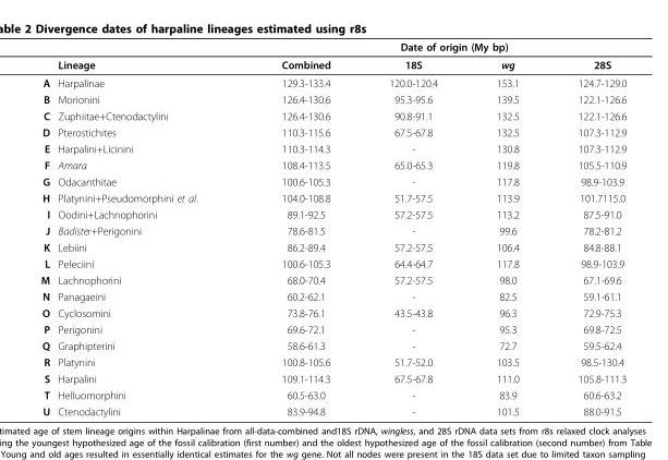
<table><thead><tr><td rowspan="2"></td><td rowspan="2">Lineage</td><td colspan="4">Date of origin (My bp)</td></tr><tr><td>Combined</td><td>18S</td><td>wg</td><td>28S</td></tr></thead><tbody><tr><td>A</td><td>Harpalinae</td><td>129.3-133.4</td><td>120.0-120.4</td><td>153.1</td><td>124.7-129.0</td></tr><tr><td>B</td><td>Morionini</td><td>126.4-130.6</td><td>95.3-95.6</td><td>139.5</td><td>122.1-126.6</td></tr><tr><td>C</td><td>Zuphiitae+Ctenodactylini</td><td>126.4-130.6</td><td>90.8-91.1</td><td>132.5</td><td>122.1-126.6</td></tr><tr><td>D</td><td>Pterostichites</td><td>110.3-115.6</td><td>67.5-67.8</td><td>132.5</td><td>107.3-112.9</td></tr><tr><td>E</td><td>Harpalini+Licinini</td><td>110.3-114.3</td><td>-</td><td>130.8</td><td>107.3-112.9</td></tr><tr><td>F</td><td>Amara</td><td>108.4-113.5</td><td>65.0-65.3</td><td>119.8</td><td>105.5-110.9</td></tr><tr><td>G</td><td>Odacanthitae</td><td>100.6-105.3</td><td>-</td><td>117.8</td><td>98.9-103.9</td></tr><tr><td>H</td><td>Platynini+Pseudomorphini et al.</td><td>104.0-108.8</td><td>51.7-57.5</td><td>113.9</td><td>101.7115.0</td></tr><tr><td>I</td><td>Oodini+Lachnophorini</td><td>89.1-92.5</td><td>57.2-57.5</td><td>113.2</td><td>87.5-91.0</td></tr><tr><td>J</td><td>Badister+Perigonini</td><td>78.6-81.5</td><td>-</td><td>99.6</td><td>78.2-81.2</td></tr><tr><td>K</td><td>Lebiini</td><td>86.2-89.4</td><td>57.2-57.5</td><td>106.4</td><td>84.8-88.1</td></tr><tr><td>L</td><td>Peleciini</td><td>100.6-105.3</td><td>64.4-64.7</td><td>117.8</td><td>98.9-103.9</td></tr><tr><td>M</td><td>Lachnophorini</td><td>68.0-70.4</td><td>57.2-57.5</td><td>98.0</td><td>67.1-69.6</td></tr><tr><td>N</td><td>Panagaeini</td><td>60.2-62.1</td><td>-</td><td>82.5</td><td>59.1-61.1</td></tr><tr><td>O</td><td>Cyclosomini</td><td>73.8-76.1</td><td>43.5-43.8</td><td>96.3</td><td>72.9-75.3</td></tr><tr><td>P</td><td>Perigonini</td><td>69.6-72.1</td><td>-</td><td>95.3</td><td>69.8-72.5</td></tr><tr><td>Q</td><td>Graphipterini</td><td>58.6-61.3</td><td>-</td><td>72.7</td><td>59.5-62.4</td></tr><tr><td>R</td><td>Platynini</td><td>100.8-105.6</td><td>51.7-52.0</td><td>103.5</td><td>98.5-130.4</td></tr><tr><td>S</td><td>Harpalini</td><td>109.1-114.3</td><td>67.5-67.8</td><td>111.0</td><td>105.8-111.3</td></tr><tr><td>T</td><td>Helluomorphini</td><td>60.5-63.0</td><td>-</td><td>83.9</td><td>60.6-63.2</td></tr><tr><td>U</td><td>Ctenodactylini</td><td>83.9-94.8</td><td>-</td><td>101.5</td><td>88.0-91.5</td></tr></tbody></table>